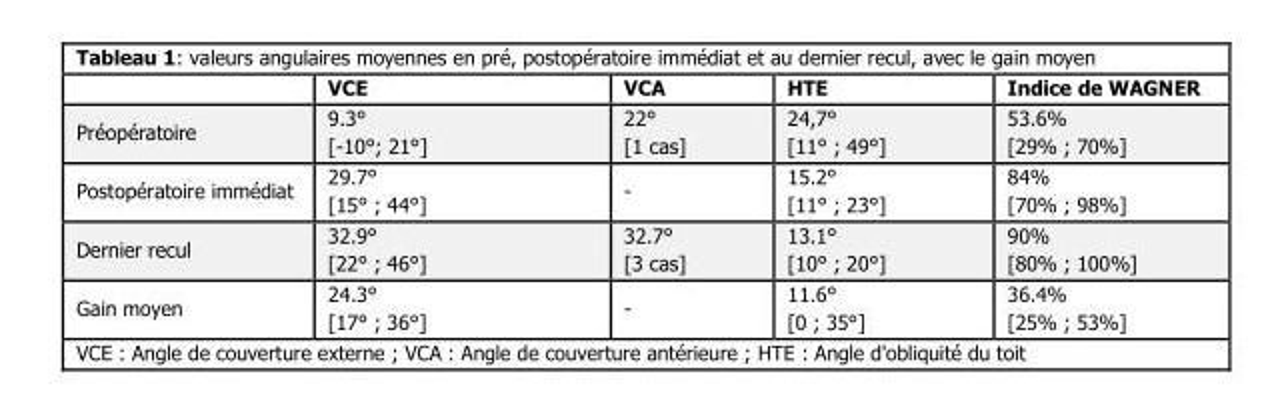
<table><thead><tr><td></td><td>VCE</td><td>VCA</td><td>HTE</td><td>Indice de WAGNER</td></tr></thead><tbody><tr><td>Préopératoire</td><td>9.3° [-10°; 21°]</td><td>22° [1 cas]</td><td>24,7° [11° ; 49°]</td><td>53.6% [29% ; 70%]</td></tr><tr><td>Postopératoire immédiat</td><td>29.7° [15° ; 44°]</td><td>-</td><td>15.2° [11° ; 23°]</td><td>84% [70% ; 98%]</td></tr><tr><td>Dernier recul</td><td>32.9° [22° ; 46°]</td><td>32.7° [3 cas]</td><td>13.1° [10° ; 20°]</td><td>90% [80% ; 100%]</td></tr><tr><td>Gain moyen</td><td>24.3° [17° ; 36°]</td><td>-</td><td>11.6° [0 ; 35°]</td><td>36.4% [25% ; 53%]</td></tr></tbody></table>